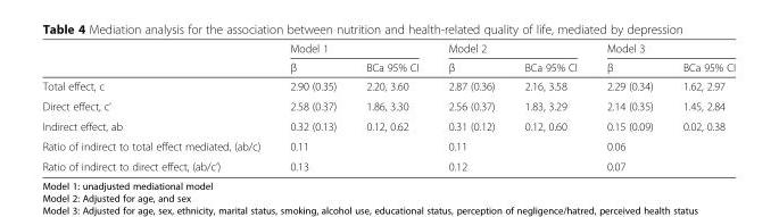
<table><thead><tr><td rowspan="2"></td><td colspan="2">Model 1</td><td colspan="2">Model 2</td><td colspan="2">Model 3</td></tr><tr><td>β</td><td>BCa 95% CI</td><td>β</td><td>BCa 95% CI</td><td>β</td><td>BCa 95% CI</td></tr></thead><tbody><tr><td>Total effect, c</td><td>2.90 (0.35)</td><td>2.20, 3.60</td><td>2.87 (0.36)</td><td>2.16, 3.58</td><td>2.29 (0.34)</td><td>1.62, 2.97</td></tr><tr><td>Direct effect, c’</td><td>2.58 (0.37)</td><td>1.86, 3.30</td><td>2.56 (0.37)</td><td>1.83, 3.29</td><td>2.14 (0.35)</td><td>1.45, 2.84</td></tr><tr><td>Indirect effect, ab</td><td>0.32 (0.13)</td><td>0.12, 0.62</td><td>0.31 (0.12)</td><td>0.12, 0.60</td><td>0.15 (0.09)</td><td>0.02, 0.38</td></tr><tr><td>Ratio of indirect to total effect mediated, (ab/c)</td><td>0.11</td><td></td><td>0.11</td><td></td><td>0.06</td><td></td></tr><tr><td>Ratio of indirect to direct effect, (ab/c’)</td><td>0.13</td><td></td><td>0.12</td><td></td><td>0.07</td><td></td></tr></tbody></table>